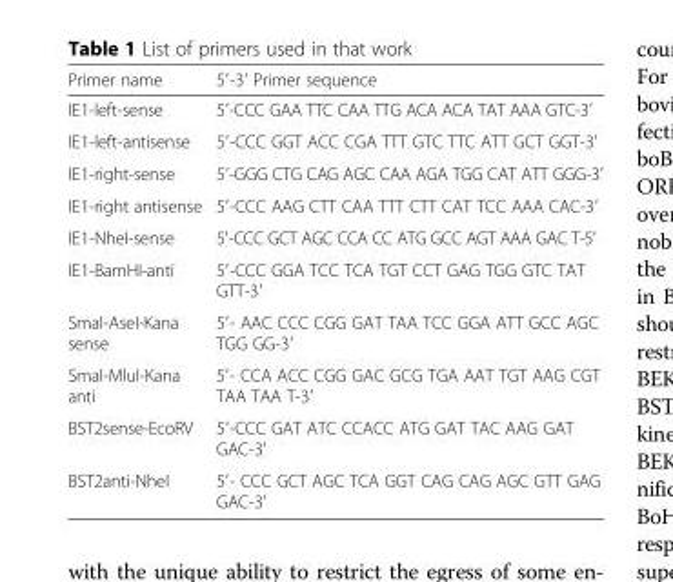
<table><thead><tr><td>Primer name</td><td>5′-3′ Primer sequence</td></tr></thead><tbody><tr><td>IE1-left-sense</td><td>5′-CCC GAA TTC CAA TTG ACA ACA TAT AAA GTC-3′</td></tr><tr><td>IE1-left-antisense</td><td>5′-CCC GGT ACC CGA TTT GTC TTC ATT GCT GGT-3′</td></tr><tr><td>IE1-right-sense</td><td>5′-GGG CTG CAG AGC CAA AGA TGG CAT ATT GGG-3′</td></tr><tr><td>IE1-right antisense</td><td>5′-CCC AAG CTT CAA TTT CTT CAT TCC AAA CAC-3′</td></tr><tr><td>IE1-NheI-sense</td><td>5′-CCC GCT AGC CCA CC ATG GCC AGT AAA GAC T-5′</td></tr><tr><td>IE1-BamHI-anti</td><td>5′-CCC GGA TCC TCA TGT CCT GAG TGG GTC TAT GTT-3′</td></tr><tr><td>SmaI-AseI-Kana sense</td><td>5′- AAC CCC CGG GAT TAA TCC GGA ATT GCC AGC TGG GG-3′</td></tr><tr><td>SmaI-MluI-Kana anti</td><td>5′- CCA ACC CGG GAC GCG TGA AAT TGT AAG CGT TAA TAA T-3′</td></tr><tr><td>BST2sense-EcoRV</td><td>5′-CCC GAT ATC CCACC ATG GAT TAC AAG GAT GAC-3′</td></tr><tr><td>BST2anti-NheI</td><td>5′- CCC GCT AGC TCA GGT CAG CAG AGC GTT GAG GAC-3′</td></tr></tbody></table>